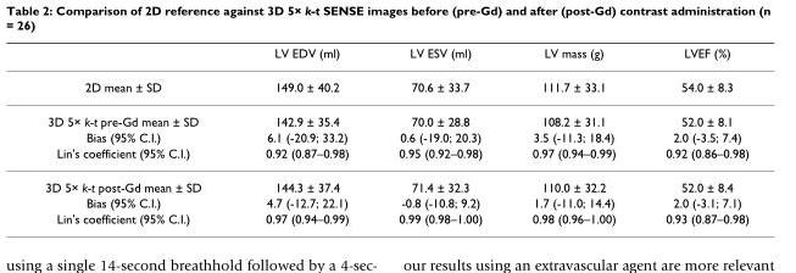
<table><thead><tr><td></td><td>LV EDV (ml)</td><td>LV ESV (ml)</td><td>LV mass (g)</td><td>LVEF (%)</td></tr></thead><tbody><tr><td>2D mean ± SD</td><td>149.0 ± 40.2</td><td>70.6 ± 33.7</td><td>111.7 ± 33.1</td><td>54.0 ± 8.3</td></tr><tr><td>3D 5× k-t pre-Gd mean ± SD</td><td>142.9 ± 35.4</td><td>70.0 ± 28.8</td><td>108.2 ± 31.1</td><td>52.0 ± 8.1</td></tr><tr><td>Bias (95% C.I.)</td><td>6.1 (-20.9; 33.2)</td><td>0.6 (-19.0; 20.3)</td><td>3.5 (-11.3; 18.4)</td><td>2.0 (-3.5; 7.4)</td></tr><tr><td>Lin&#x27;s coefficient (95% C.I.)</td><td>0.92 (0.87–0.98)</td><td>0.95 (0.92–0.98)</td><td>0.97 (0.94–0.99)</td><td>0.92 (0.86–0.98)</td></tr><tr><td>3D 5× k-t post-Gd mean ± SD</td><td>144.3 ± 37.4</td><td>71.4 ± 32.3</td><td>110.0 ± 32.2</td><td>52.0 ± 8.4</td></tr><tr><td>Bias (95% C.I.)</td><td>4.7 (-12.7; 22.1)</td><td>-0.8 (-10.8; 9.2)</td><td>1.7 (-11.0; 14.4)</td><td>2.0 (-3.1; 7.1)</td></tr><tr><td>Lin&#x27;s coefficient (95% C.I.)</td><td>0.97 (0.94–0.99)</td><td>0.99 (0.98–1.00)</td><td>0.98 (0.96–1.00)</td><td>0.93 (0.87–0.98)</td></tr></tbody></table>